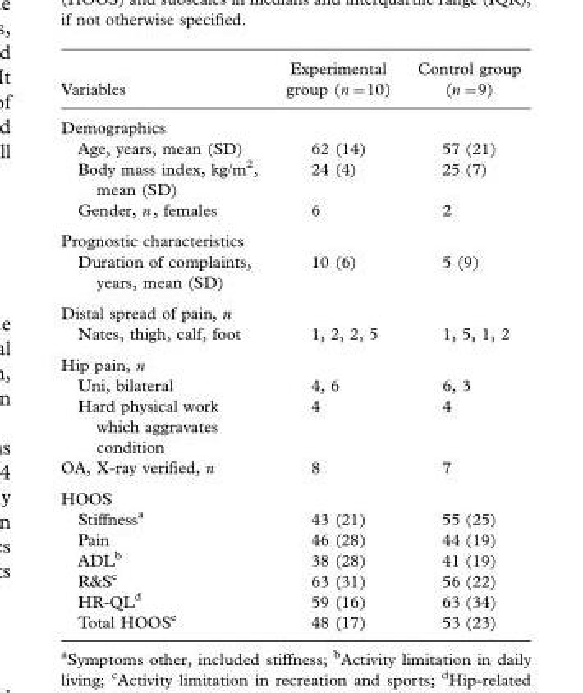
<table><thead><tr><td>Variables</td><td>Experimental group (n=10)</td><td>Control group (n=9)</td></tr></thead><tbody><tr><td colspan="3">Demographics</td></tr><tr><td>Age, years, mean (SD)</td><td>62 (14)</td><td>57 (21)</td></tr><tr><td>Body mass index, kg/m<sup>2</sup>, mean (SD)</td><td>24 (4)</td><td>25 (7)</td></tr><tr><td>Gender, n, females</td><td>6</td><td>2</td></tr><tr><td colspan="3">Prognostic characteristics</td></tr><tr><td>Duration of complaints, years, mean (SD)</td><td>10 (6)</td><td>5 (9)</td></tr><tr><td colspan="3">Distal spread of pain, n</td></tr><tr><td>Nates, thigh, calf, foot</td><td>1, 2, 2, 5</td><td>1, 5, 1, 2</td></tr><tr><td colspan="3">Hip pain, n</td></tr><tr><td>Uni, bilateral</td><td>4, 6</td><td>6, 3</td></tr><tr><td>Hard physical work which aggravates condition</td><td>4</td><td>4</td></tr><tr><td>OA, X-ray verified, n</td><td>8</td><td>7</td></tr><tr><td colspan="3">HOOS</td></tr><tr><td>Stiffness<sup>a</sup></td><td>43 (21)</td><td>55 (25)</td></tr><tr><td>Pain</td><td>46 (28)</td><td>44 (19)</td></tr><tr><td>ADL<sup>b</sup></td><td>38 (28)</td><td>41 (19)</td></tr><tr><td>R&amp;S<sup>c</sup></td><td>63 (31)</td><td>56 (22)</td></tr><tr><td>HR-QL<sup>d</sup></td><td>59 (16)</td><td>63 (34)</td></tr><tr><td>Total HOOS<sup>e</sup></td><td>48 (17)</td><td>53 (23)</td></tr></tbody></table>